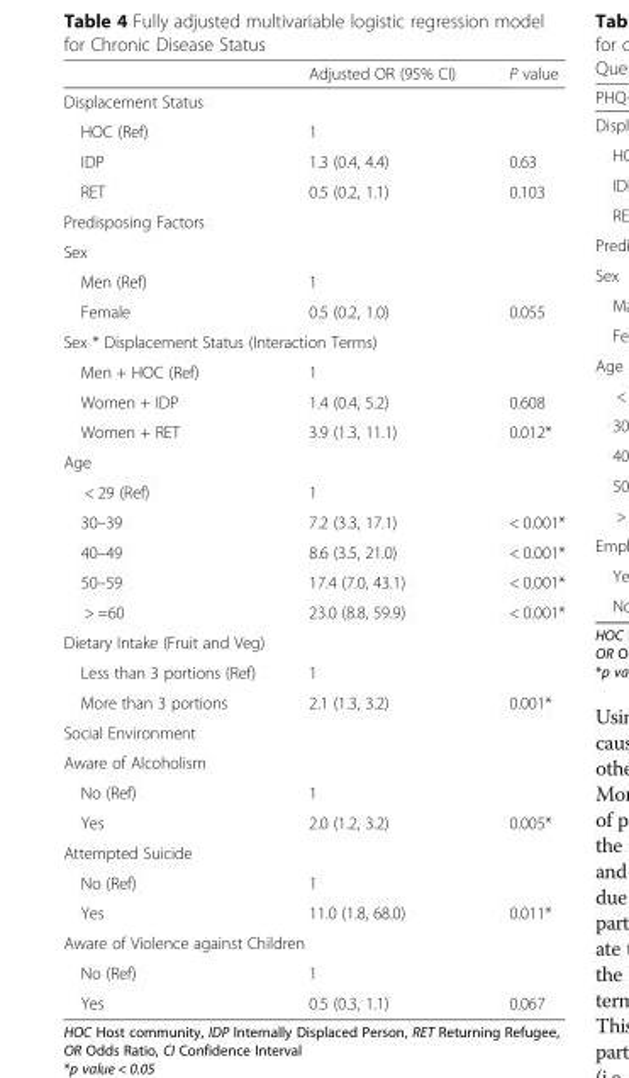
<table><thead><tr><td></td><td>Adjusted OR (95% CI)</td><td>P value</td></tr></thead><tbody><tr><td colspan="3">Displacement Status</td></tr><tr><td>HOC (Ref)</td><td>1</td><td></td></tr><tr><td>IDP</td><td>1.3 (0.4, 4.4)</td><td>0.63</td></tr><tr><td>RET</td><td>0.5 (0.2, 1.1)</td><td>0.103</td></tr><tr><td colspan="3">Predisposing Factors</td></tr><tr><td colspan="3">Sex</td></tr><tr><td>Men (Ref)</td><td>1</td><td></td></tr><tr><td>Female</td><td>0.5 (0.2, 1.0)</td><td>0.055</td></tr><tr><td colspan="3">Sex * Displacement Status (Interaction Terms)</td></tr><tr><td>Men + HOC (Ref)</td><td>1</td><td></td></tr><tr><td>Women + IDP</td><td>1.4 (0.4, 5.2)</td><td>0.608</td></tr><tr><td>Women + RET</td><td>3.9 (1.3, 11.1)</td><td>0.012*</td></tr><tr><td colspan="3">Age</td></tr><tr><td>&lt; 29 (Ref)</td><td>1</td><td></td></tr><tr><td>30–39</td><td>7.2 (3.3, 17.1)</td><td>&lt; 0.001*</td></tr><tr><td>40–49</td><td>8.6 (3.5, 21.0)</td><td>&lt; 0.001*</td></tr><tr><td>50–59</td><td>17.4 (7.0, 43.1)</td><td>&lt; 0.001*</td></tr><tr><td>&gt; =60</td><td>23.0 (8.8, 59.9)</td><td>&lt; 0.001*</td></tr><tr><td colspan="3">Dietary Intake (Fruit and Veg)</td></tr><tr><td>Less than 3 portions (Ref)</td><td>1</td><td></td></tr><tr><td>More than 3 portions</td><td>2.1 (1.3, 3.2)</td><td>0.001*</td></tr><tr><td colspan="3">Social Environment</td></tr><tr><td colspan="3">Aware of Alcoholism</td></tr><tr><td>No (Ref)</td><td>1</td><td></td></tr><tr><td>Yes</td><td>2.0 (1.2, 3.2)</td><td>0.005*</td></tr><tr><td colspan="3">Attempted Suicide</td></tr><tr><td>No (Ref)</td><td>1</td><td></td></tr><tr><td>Yes</td><td>11.0 (1.8, 68.0)</td><td>0.011*</td></tr><tr><td colspan="3">Aware of Violence against Children</td></tr><tr><td>No (Ref)</td><td>1</td><td></td></tr><tr><td>Yes</td><td>0.5 (0.3, 1.1)</td><td>0.067</td></tr></tbody></table>